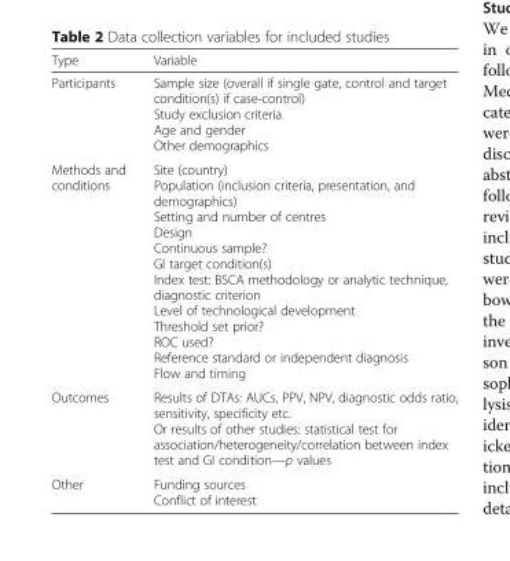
<table><thead><tr><td>Type</td><td>Variable</td></tr></thead><tbody><tr><td>Participants</td><td>Sample size (overall if single gate, control and target condition(s) if case-control) Study exclusion criteria Age and gender Other demographics</td></tr><tr><td>Methods and conditions</td><td>Site (country) Population (inclusion criteria, presentation, and demographics) Setting and number of centres Design Continuous sample? GI target condition(s) Index test: BSCA methodology or analytic technique, diagnostic criterion Level of technological development Threshold set prior? ROC used? Reference standard or independent diagnosis Flow and timing</td></tr><tr><td>Outcomes</td><td>Results of DTAs: AUCs, PPV, NPV, diagnostic odds ratio, sensitivity, specificity etc. Or results of other studies: statistical test for association/heterogeneity/correlation between index test and GI condition—p values</td></tr><tr><td>Other</td><td>Funding sources Conflict of interest</td></tr></tbody></table>